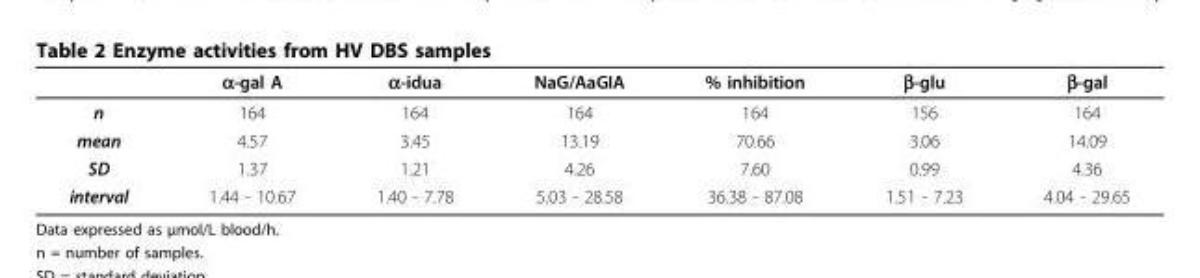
<table><thead><tr><td></td><td>α-gal A</td><td>α-idua</td><td>NaG/AaGIA</td><td>% inhibition</td><td>β-glu</td><td>β-gal</td></tr></thead><tbody><tr><td>n</td><td>164</td><td>164</td><td>164</td><td>164</td><td>156</td><td>164</td></tr><tr><td>mean</td><td>4.57</td><td>3.45</td><td>13.19</td><td>70.66</td><td>3.06</td><td>14.09</td></tr><tr><td>SD</td><td>1.37</td><td>1.21</td><td>4.26</td><td>7.60</td><td>0.99</td><td>4.36</td></tr><tr><td>interval</td><td>1.44 - 10.67</td><td>1.40 - 7.78</td><td>5.03 - 28.58</td><td>36.38 - 87.08</td><td>1.51 - 7.23</td><td>4.04 - 29.65</td></tr></tbody></table>